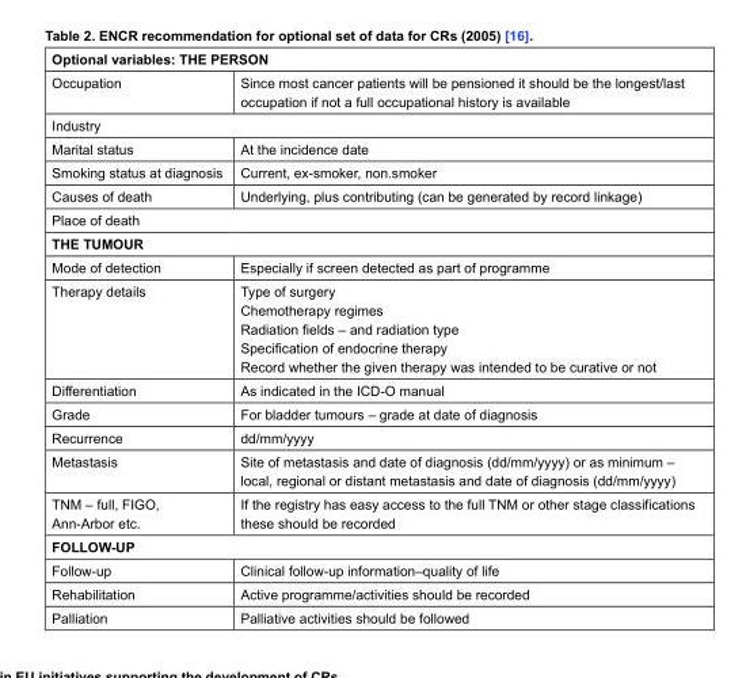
<table><thead><tr><td colspan="2">Optional variables: THE PERSON</td></tr><tr><td>Occupation</td><td>Since most cancer patients will be pensioned it should be the longest/last occupation if not a full occupational history is available</td></tr></thead><tbody><tr><td colspan="2">Industry</td></tr><tr><td>Marital status</td><td>At the incidence date</td></tr><tr><td>Smoking status at diagnosis</td><td>Current, ex-smoker, non.smoker</td></tr><tr><td>Causes of death</td><td>Underlying, plus contributing (can be generated by record linkage)</td></tr><tr><td colspan="2">Place of death</td></tr><tr><td colspan="2">THE TUMOUR</td></tr><tr><td>Mode of detection</td><td>Especially if screen detected as part of programme</td></tr><tr><td>Therapy details</td><td>Type of surgery Chemotherapy regimes Radiation fields – and radiation type Specification of endocrine therapy Record whether the given therapy was intended to be curative or not</td></tr><tr><td>Differentiation</td><td>As indicated in the ICD-O manual</td></tr><tr><td>Grade</td><td>For bladder tumours – grade at date of diagnosis</td></tr><tr><td>Recurrence</td><td>dd/mm/yyyy</td></tr><tr><td>Metastasis</td><td>Site of metastasis and date of diagnosis (dd/mm/yyyy) or as minimum – local, regional or distant metastasis and date of diagnosis (dd/mm/yyyy)</td></tr><tr><td>TNM – full, FIGO, Ann-Arbor etc.</td><td>If the registry has easy access to the full TNM or other stage classifications these should be recorded</td></tr><tr><td colspan="2">FOLLOW-UP</td></tr><tr><td>Follow-up</td><td>Clinical follow-up information–quality of life</td></tr><tr><td>Rehabilitation</td><td>Active programme/activities should be recorded</td></tr><tr><td>Palliation</td><td>Palliative activities should be followed</td></tr></tbody></table>